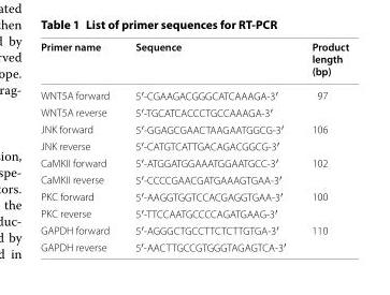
<table><thead><tr><td>Primer name</td><td>Sequence</td><td>Product length (bp)</td></tr></thead><tbody><tr><td>WNT5A forward</td><td>5′-CGA AGA CGG GCA TCA AAG A-3′</td><td>97</td></tr><tr><td>WNT5A reverse</td><td>5′-TGC ATC ACC CTG CCA AAG A-3′</td><td></td></tr><tr><td>JNK forward</td><td>5′-GGA GCG AAC TAA GAA TGG CG-3′</td><td>106</td></tr><tr><td>JNK reverse</td><td>5′-CAT GTC ATT GAC AGA CGG CG-3′</td><td></td></tr><tr><td>CaMKII forward</td><td>5′-ATG GAT GGA AAT GGA ATG CC-3′</td><td>102</td></tr><tr><td>CaMKII reverse</td><td>5′-CCC CGA ACG ATG AAA GTG AA-3′</td><td></td></tr><tr><td>PKC forward</td><td>5′-AAG GTG GTC CAC GAG GTG AA-3′</td><td>100</td></tr><tr><td>PKC reverse</td><td>5′-TTC CAA TGC CCC AGA TGA AG-3′</td><td></td></tr><tr><td>GAPDH forward</td><td>5′-AGG GCT GCC TTC TCT TGT GA-3′</td><td>110</td></tr><tr><td>GAPDH reverse</td><td>5′-AAC TTG CCG TGG GTA GAG TCA-3′</td><td></td></tr></tbody></table>